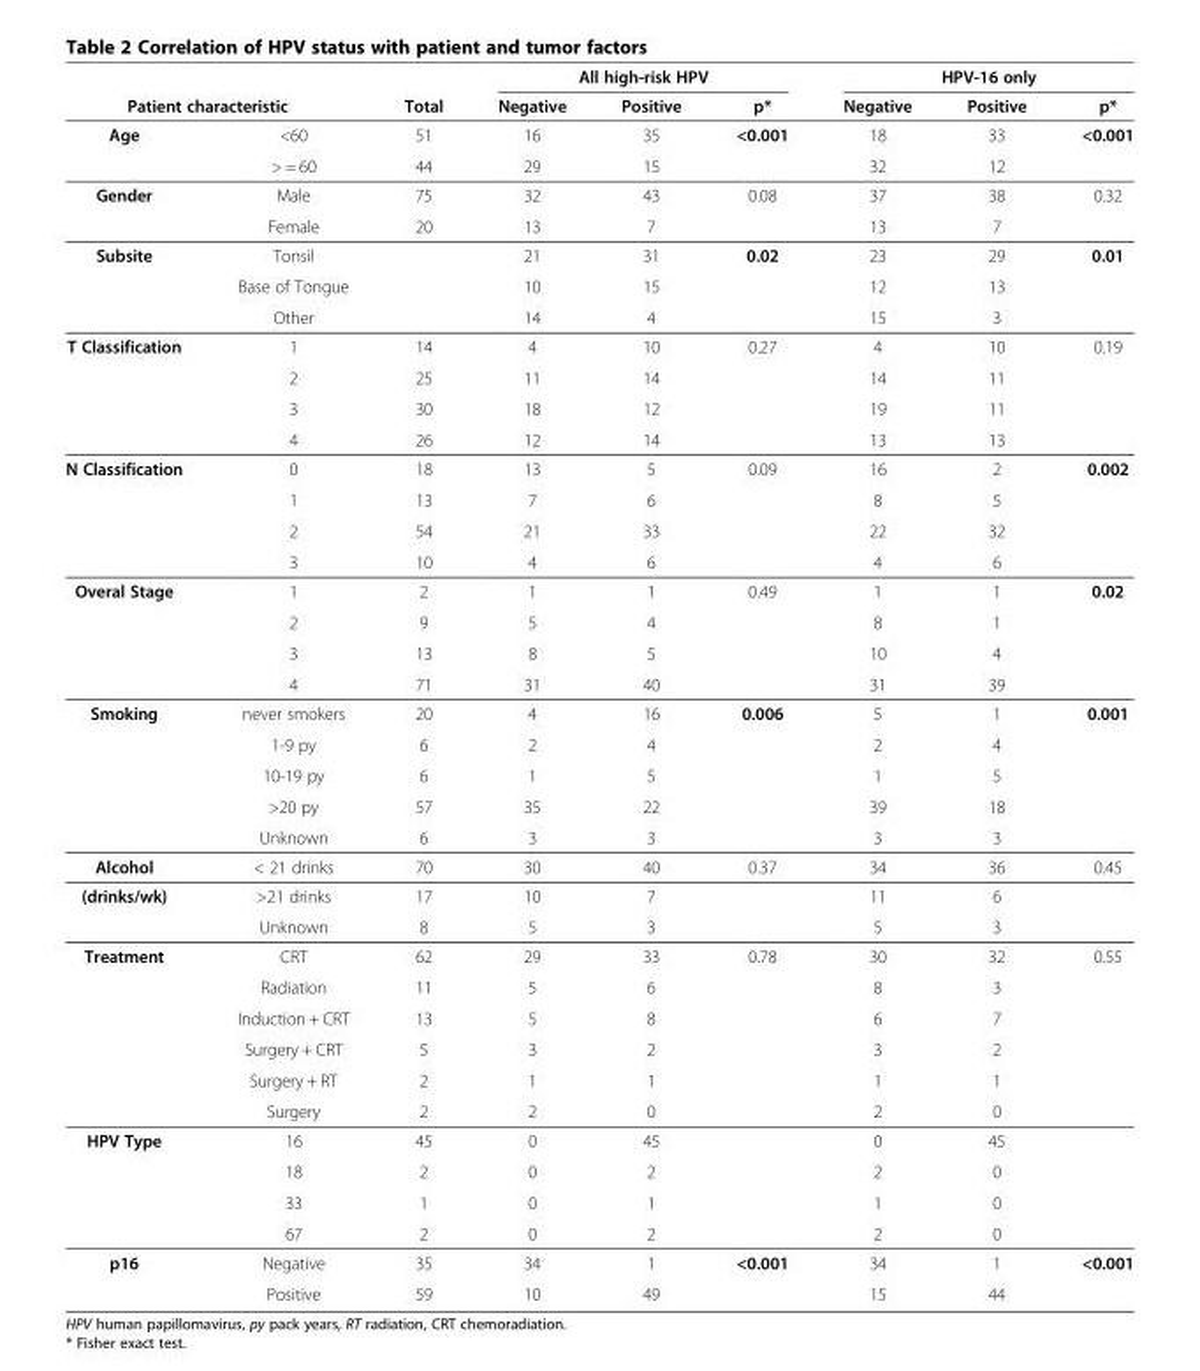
<table><thead><tr><td></td><td></td><td rowspan="2">Total</td><td colspan="3">All high-risk HPV</td><td colspan="3">HPV-16 only</td></tr><tr><td colspan="2">Patient characteristic</td><td>Negative</td><td>Positive</td><td>p*</td><td>Negative</td><td>Positive</td><td>p*</td></tr></thead><tbody><tr><td rowspan="2">Age</td><td>&lt;60</td><td>51</td><td>16</td><td>35</td><td>&lt;0.001</td><td>18</td><td>33</td><td>&lt;0.001</td></tr><tr><td>&gt; = 60</td><td>44</td><td>29</td><td>15</td><td></td><td>32</td><td>12</td><td></td></tr><tr><td rowspan="2">Gender</td><td>Male</td><td>75</td><td>32</td><td>43</td><td>0.08</td><td>37</td><td>38</td><td>0.32</td></tr><tr><td>Female</td><td>20</td><td>13</td><td>7</td><td></td><td>13</td><td>7</td><td></td></tr><tr><td rowspan="3">Subsite</td><td>Tonsil</td><td></td><td>21</td><td>31</td><td>0.02</td><td>23</td><td>29</td><td>0.01</td></tr><tr><td>Base of Tongue</td><td></td><td>10</td><td>15</td><td></td><td>12</td><td>13</td><td></td></tr><tr><td>Other</td><td></td><td>14</td><td>4</td><td></td><td>15</td><td>3</td><td></td></tr><tr><td rowspan="4">T Classification</td><td>1</td><td>14</td><td>4</td><td>10</td><td>0.27</td><td>4</td><td>10</td><td>0.19</td></tr><tr><td>2</td><td>25</td><td>11</td><td>14</td><td></td><td>14</td><td>11</td><td></td></tr><tr><td>3</td><td>30</td><td>18</td><td>12</td><td></td><td>19</td><td>11</td><td></td></tr><tr><td>4</td><td>26</td><td>12</td><td>14</td><td></td><td>13</td><td>13</td><td></td></tr><tr><td rowspan="4">N Classification</td><td>0</td><td>18</td><td>13</td><td>5</td><td>0.09</td><td>16</td><td>2</td><td>0.002</td></tr><tr><td>1</td><td>13</td><td>7</td><td>6</td><td></td><td>8</td><td>5</td><td></td></tr><tr><td>2</td><td>54</td><td>21</td><td>33</td><td></td><td>22</td><td>32</td><td></td></tr><tr><td>3</td><td>10</td><td>4</td><td>6</td><td></td><td>4</td><td>6</td><td></td></tr><tr><td rowspan="4">Overal Stage</td><td>1</td><td>2</td><td>1</td><td>1</td><td>0.49</td><td>1</td><td>1</td><td>0.02</td></tr><tr><td>2</td><td>9</td><td>5</td><td>4</td><td></td><td>8</td><td>1</td><td></td></tr><tr><td>3</td><td>13</td><td>8</td><td>5</td><td></td><td>10</td><td>4</td><td></td></tr><tr><td>4</td><td>71</td><td>31</td><td>40</td><td></td><td>31</td><td>39</td><td></td></tr><tr><td rowspan="5">Smoking</td><td>never smokers</td><td>20</td><td>4</td><td>16</td><td>0.006</td><td>5</td><td>1</td><td>0.001</td></tr><tr><td>1-9 py</td><td>6</td><td>2</td><td>4</td><td></td><td>2</td><td>4</td><td></td></tr><tr><td>10-19 py</td><td>6</td><td>1</td><td>5</td><td></td><td>1</td><td>5</td><td></td></tr><tr><td>&gt;20 py</td><td>57</td><td>35</td><td>22</td><td></td><td>39</td><td>18</td><td></td></tr><tr><td>Unknown</td><td>6</td><td>3</td><td>3</td><td></td><td>3</td><td>3</td><td></td></tr><tr><td>Alcohol</td><td>&lt; 21 drinks</td><td>70</td><td>30</td><td>40</td><td>0.37</td><td>34</td><td>36</td><td>0.45</td></tr><tr><td rowspan="2">(drinks/wk)</td><td>&gt;21 drinks</td><td>17</td><td>10</td><td>7</td><td></td><td>11</td><td>6</td><td></td></tr><tr><td>Unknown</td><td>8</td><td>5</td><td>3</td><td></td><td>5</td><td>3</td><td></td></tr><tr><td rowspan="6">Treatment</td><td>CRT</td><td>62</td><td>29</td><td>33</td><td>0.78</td><td>30</td><td>32</td><td>0.55</td></tr><tr><td>Radiation</td><td>11</td><td>5</td><td>6</td><td></td><td>8</td><td>3</td><td></td></tr><tr><td>Induction + CRT</td><td>13</td><td>5</td><td>8</td><td></td><td>6</td><td>7</td><td></td></tr><tr><td>Surgery + CRT</td><td>5</td><td>3</td><td>2</td><td></td><td>3</td><td>2</td><td></td></tr><tr><td>Surgery + RT</td><td>2</td><td>1</td><td>1</td><td></td><td>1</td><td>1</td><td></td></tr><tr><td>Surgery</td><td>2</td><td>2</td><td>0</td><td></td><td>2</td><td>0</td><td></td></tr><tr><td rowspan="4">HPV Type</td><td>16</td><td>45</td><td>0</td><td>45</td><td></td><td>0</td><td>45</td><td></td></tr><tr><td>18</td><td>2</td><td>0</td><td>2</td><td></td><td>2</td><td>0</td><td></td></tr><tr><td>33</td><td>1</td><td>0</td><td>1</td><td></td><td>1</td><td>0</td><td></td></tr><tr><td>67</td><td>2</td><td>0</td><td>2</td><td></td><td>2</td><td>0</td><td></td></tr><tr><td rowspan="2">p16</td><td>Negative</td><td>35</td><td>34</td><td>1</td><td>&lt;0.001</td><td>34</td><td>1</td><td>&lt;0.001</td></tr><tr><td>Positive</td><td>59</td><td>10</td><td>49</td><td></td><td>15</td><td>44</td><td></td></tr></tbody></table>